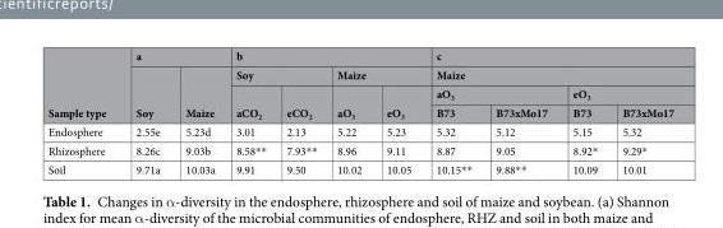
<table><thead><tr><td rowspan="4">Sample type</td><td colspan="2">a</td><td colspan="4">b</td><td rowspan="2" colspan="4">c Maize</td></tr><tr><td rowspan="3">Soy</td><td rowspan="3">Maize</td><td colspan="2">Soy</td><td colspan="2">Maize</td></tr><tr><td rowspan="2">aCO<sub>2</sub></td><td rowspan="2">eCO<sub>2</sub></td><td rowspan="2">aO<sub>3</sub></td><td rowspan="2">eO<sub>3</sub></td><td colspan="2">aO<sub>3</sub></td><td colspan="2">eO<sub>3</sub></td></tr><tr><td>B73</td><td>B73xMo17</td><td>B73</td><td>B73xMo17</td></tr></thead><tbody><tr><td>Endosphere</td><td>2.55e</td><td>5.23d</td><td>3.01</td><td>2.13</td><td>5.22</td><td>5.23</td><td>5.32</td><td>5.12</td><td>5.15</td><td>5.32</td></tr><tr><td>Rhizosphere</td><td>8.26c</td><td>9.03b</td><td>8.58**</td><td>7.93**</td><td>8.96</td><td>9.11</td><td>8.87</td><td>9.05</td><td>8.92*</td><td>9.29*</td></tr><tr><td>Soil</td><td>9.71a</td><td>10.03a</td><td>9.91</td><td>9.50</td><td>10.02</td><td>10.05</td><td>10.15**</td><td>9.88**</td><td>10.09</td><td>10.01</td></tr></tbody></table>